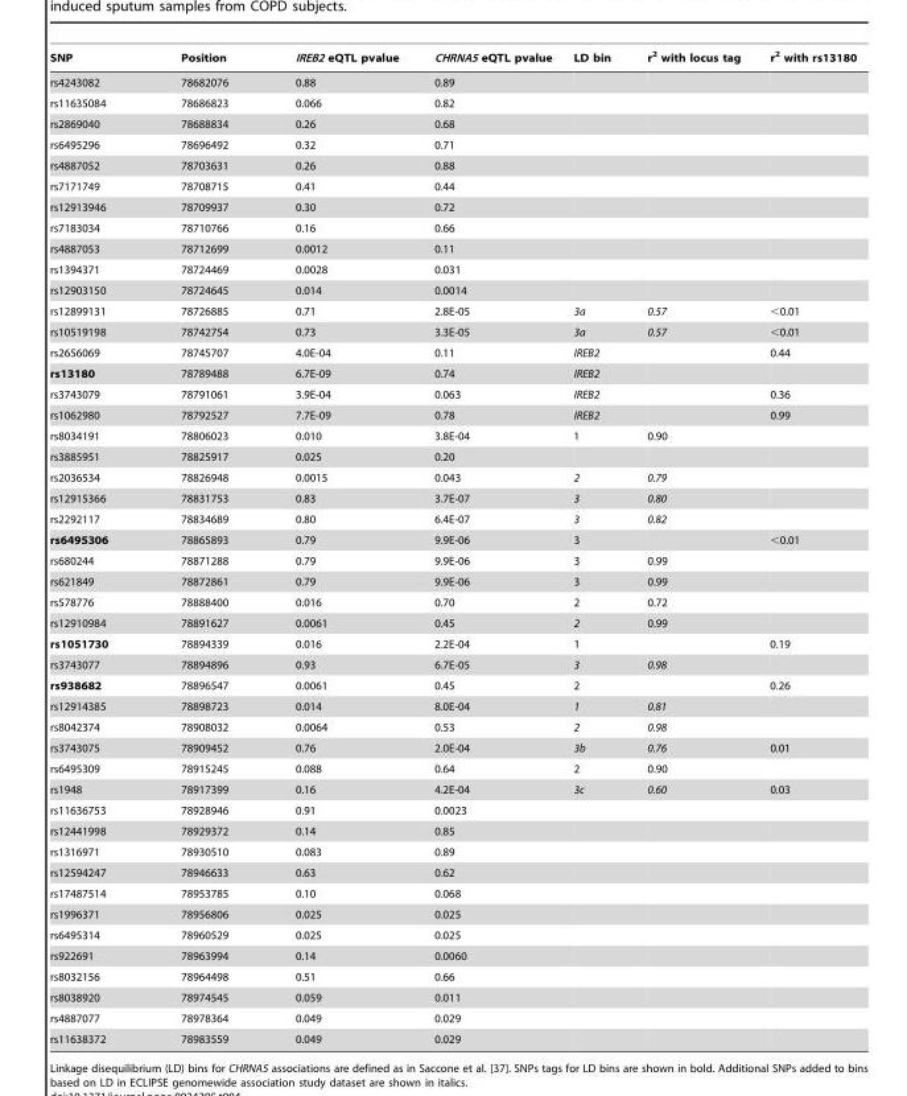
<table><thead><tr><td>SNP</td><td>Position</td><td>IREB2 eQTL pvalue</td><td>CHRNA5 eQTL pvalue</td><td>LD bin</td><td>r<sup>2</sup> with locus tag</td><td>r<sup>2</sup> with rs13180</td></tr></thead><tbody><tr><td>rs4243082</td><td>78682076</td><td>0.88</td><td>0.89</td><td></td><td></td><td></td></tr><tr><td>rs11635084</td><td>78686823</td><td>0.066</td><td>0.82</td><td></td><td></td><td></td></tr><tr><td>rs2869040</td><td>78688834</td><td>0.26</td><td>0.68</td><td></td><td></td><td></td></tr><tr><td>rs6495296</td><td>78696492</td><td>0.32</td><td>0.71</td><td></td><td></td><td></td></tr><tr><td>rs4887052</td><td>78703631</td><td>0.26</td><td>0.88</td><td></td><td></td><td></td></tr><tr><td>rs7171749</td><td>78708715</td><td>0.41</td><td>0.44</td><td></td><td></td><td></td></tr><tr><td>rs12913946</td><td>78709937</td><td>0.30</td><td>0.72</td><td></td><td></td><td></td></tr><tr><td>rs7183034</td><td>78710766</td><td>0.16</td><td>0.66</td><td></td><td></td><td></td></tr><tr><td>rs4887053</td><td>78712699</td><td>0.0012</td><td>0.11</td><td></td><td></td><td></td></tr><tr><td>rs1394371</td><td>78724469</td><td>0.0028</td><td>0.031</td><td></td><td></td><td></td></tr><tr><td>rs12903150</td><td>78724645</td><td>0.014</td><td>0.0014</td><td></td><td></td><td></td></tr><tr><td>rs12899131</td><td>78726885</td><td>0.71</td><td>2.8E-05</td><td>3a</td><td>0.57</td><td>&lt;0.01</td></tr><tr><td>rs10519198</td><td>78742754</td><td>0.73</td><td>3.3E-05</td><td>3a</td><td>0.57</td><td>&lt;0.01</td></tr><tr><td>rs2656069</td><td>78745707</td><td>4.0E-04</td><td>0.11</td><td>IREB2</td><td></td><td>0.44</td></tr><tr><td>rs13180</td><td>78789488</td><td>6.7E-09</td><td>0.74</td><td>IREB2</td><td></td><td></td></tr><tr><td>rs3743079</td><td>78791061</td><td>3.9E-04</td><td>0.063</td><td>IREB2</td><td></td><td>0.36</td></tr><tr><td>rs1062980</td><td>78792527</td><td>7.7E-09</td><td>0.78</td><td>IREB2</td><td></td><td>0.99</td></tr><tr><td>rs8034191</td><td>78806023</td><td>0.010</td><td>3.8E-04</td><td>1</td><td>0.90</td><td></td></tr><tr><td>rs3885951</td><td>78825917</td><td>0.025</td><td>0.20</td><td></td><td></td><td></td></tr><tr><td>rs2036534</td><td>78826948</td><td>0.0015</td><td>0.043</td><td>2</td><td>0.79</td><td></td></tr><tr><td>rs12915366</td><td>78831753</td><td>0.83</td><td>3.7E-07</td><td>3</td><td>0.80</td><td></td></tr><tr><td>rs2292117</td><td>78834689</td><td>0.80</td><td>6.4E-07</td><td>3</td><td>0.82</td><td></td></tr><tr><td>rs6495306</td><td>78865893</td><td>0.79</td><td>9.9E-06</td><td>3</td><td></td><td>&lt;0.01</td></tr><tr><td>rs680244</td><td>78871288</td><td>0.79</td><td>9.9E-06</td><td>3</td><td>0.99</td><td></td></tr><tr><td>rs621849</td><td>78872861</td><td>0.79</td><td>9.9E-06</td><td>3</td><td>0.99</td><td></td></tr><tr><td>rs578776</td><td>78888400</td><td>0.016</td><td>0.70</td><td>2</td><td>0.72</td><td></td></tr><tr><td>rs12910984</td><td>78891627</td><td>0.0061</td><td>0.45</td><td>2</td><td>0.99</td><td></td></tr><tr><td>rs1051730</td><td>78894339</td><td>0.016</td><td>2.2E-04</td><td>1</td><td></td><td>0.19</td></tr><tr><td>rs3743077</td><td>78894896</td><td>0.93</td><td>6.7E-05</td><td>3</td><td>0.98</td><td></td></tr><tr><td>rs938682</td><td>78896547</td><td>0.0061</td><td>0.45</td><td>2</td><td></td><td>0.26</td></tr><tr><td>rs12914385</td><td>78898723</td><td>0.014</td><td>8.0E-04</td><td>1</td><td>0.81</td><td></td></tr><tr><td>rs8042374</td><td>78908032</td><td>0.0064</td><td>0.53</td><td>2</td><td>0.98</td><td></td></tr><tr><td>rs3743075</td><td>78909452</td><td>0.76</td><td>2.0E-04</td><td>3b</td><td>0.76</td><td>0.01</td></tr><tr><td>rs6495309</td><td>78915245</td><td>0.088</td><td>0.64</td><td>2</td><td>0.90</td><td></td></tr><tr><td>rs1948</td><td>78917399</td><td>0.16</td><td>4.2E-04</td><td>3c</td><td>0.60</td><td>0.03</td></tr><tr><td>rs11636753</td><td>78928946</td><td>0.91</td><td>0.0023</td><td></td><td></td><td></td></tr><tr><td>rs12441998</td><td>78929372</td><td>0.14</td><td>0.85</td><td></td><td></td><td></td></tr><tr><td>rs1316971</td><td>78930510</td><td>0.083</td><td>0.89</td><td></td><td></td><td></td></tr><tr><td>rs12594247</td><td>78946633</td><td>0.63</td><td>0.62</td><td></td><td></td><td></td></tr><tr><td>rs17487514</td><td>78953785</td><td>0.10</td><td>0.068</td><td></td><td></td><td></td></tr><tr><td>rs1996371</td><td>78956806</td><td>0.025</td><td>0.025</td><td></td><td></td><td></td></tr><tr><td>rs6495314</td><td>78960529</td><td>0.025</td><td>0.025</td><td></td><td></td><td></td></tr><tr><td>rs922691</td><td>78963994</td><td>0.14</td><td>0.0060</td><td></td><td></td><td></td></tr><tr><td>rs8032156</td><td>78964498</td><td>0.51</td><td>0.66</td><td></td><td></td><td></td></tr><tr><td>rs8038920</td><td>78974545</td><td>0.059</td><td>0.011</td><td></td><td></td><td></td></tr><tr><td>rs4887077</td><td>78978364</td><td>0.049</td><td>0.029</td><td></td><td></td><td></td></tr><tr><td>rs11638372</td><td>78983559</td><td>0.049</td><td>0.029</td><td></td><td></td><td></td></tr></tbody></table>